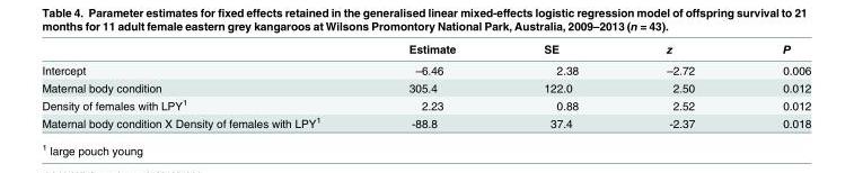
<table><thead><tr><td></td><td>Estimate</td><td>SE</td><td>z</td><td>P</td></tr></thead><tbody><tr><td>Intercept</td><td>–6.46</td><td>2.38</td><td>–2.72</td><td>0.006</td></tr><tr><td>Maternal body condition</td><td>305.4</td><td>122.0</td><td>2.50</td><td>0.012</td></tr><tr><td>Density of females with LPY<sup>1</sup></td><td>2.23</td><td>0.88</td><td>2.52</td><td>0.012</td></tr><tr><td>Maternal body condition X Density of females with LPY<sup>1</sup></td><td>-88.8</td><td>37.4</td><td>-2.37</td><td>0.018</td></tr></tbody></table>